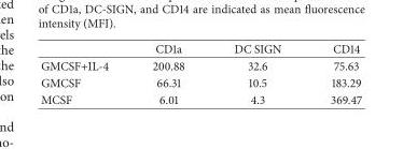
<table><thead><tr><td></td><td>CD1a</td><td>DC SIGN</td><td>CD14</td></tr></thead><tbody><tr><td>GMCSF+IL-4</td><td>200.88</td><td>32.6</td><td>75.63</td></tr><tr><td>GMCSF</td><td>66.31</td><td>10.5</td><td>183.29</td></tr><tr><td>MCSF</td><td>6.01</td><td>4.3</td><td>369.47</td></tr></tbody></table>